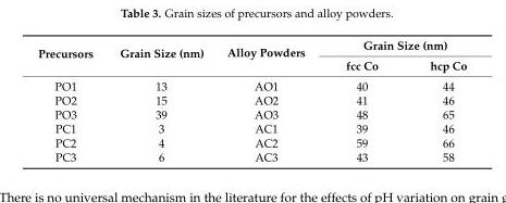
<table><thead><tr><td rowspan="2">Precursors</td><td rowspan="2">Grain Size (nm)</td><td rowspan="2">Alloy Powders</td><td colspan="2">Grain Size (nm)</td></tr><tr><td>fcc Co</td><td>hcp Co</td></tr></thead><tbody><tr><td>PO1</td><td>13</td><td>AO1</td><td>40</td><td>44</td></tr><tr><td>PO2</td><td>15</td><td>AO2</td><td>41</td><td>46</td></tr><tr><td>PO3</td><td>39</td><td>AO3</td><td>48</td><td>65</td></tr><tr><td>PC1</td><td>3</td><td>AC1</td><td>39</td><td>46</td></tr><tr><td>PC2</td><td>4</td><td>AC2</td><td>59</td><td>66</td></tr><tr><td>PC3</td><td>6</td><td>AC3</td><td>43</td><td>58</td></tr></tbody></table>